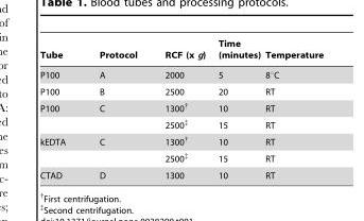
<table><thead><tr><td>Tube</td><td>Protocol</td><td>RCF (x g)</td><td>Time (minutes)</td><td>Temperature</td></tr></thead><tbody><tr><td>P100</td><td>A</td><td>2000</td><td>5</td><td>8°C</td></tr><tr><td>P100</td><td>B</td><td>2500</td><td>20</td><td>RT</td></tr><tr><td rowspan="2">P100</td><td>C</td><td>1300†</td><td>10</td><td>RT</td></tr><tr><td></td><td>2500‡</td><td>15</td><td>RT</td></tr><tr><td rowspan="2">kEDTA</td><td>C</td><td>1300†</td><td>10</td><td>RT</td></tr><tr><td></td><td>2500‡</td><td>15</td><td>RT</td></tr><tr><td>CTAD</td><td>D</td><td>1300</td><td>10</td><td>RT</td></tr></tbody></table>